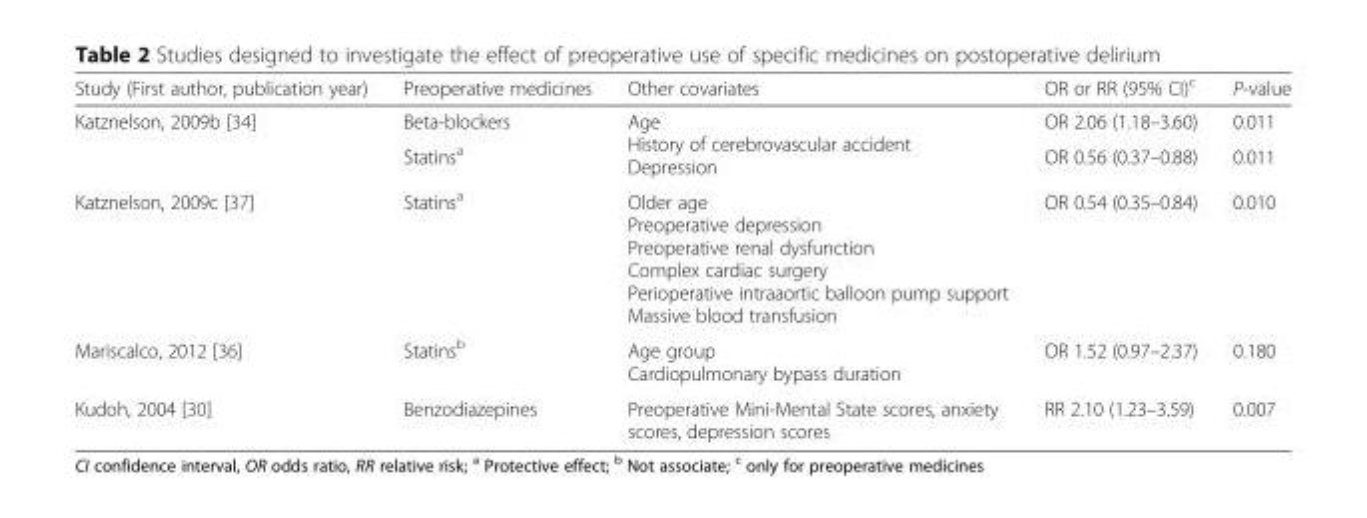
<table><thead><tr><td>Study (First author, publication year)</td><td>Preoperative medicines</td><td>Other covariates</td><td>OR or RR (95% CI)<sup>c</sup></td><td>P-value</td></tr></thead><tbody><tr><td rowspan="2">Katznelson, 2009b [34]</td><td>Beta-blockers</td><td rowspan="2">Age History of cerebrovascular accident Depression</td><td>OR 2.06 (1.18–3.60)</td><td>0.011</td></tr><tr><td>Statins<sup>a</sup></td><td>OR 0.56 (0.37–0.88)</td><td>0.011</td></tr><tr><td>Katznelson, 2009c [37]</td><td>Statins<sup>a</sup></td><td>Older age Preoperative depression Preoperative renal dysfunction Complex cardiac surgery Perioperative intraaortic balloon pump support Massive blood transfusion</td><td>OR 0.54 (0.35–0.84)</td><td>0.010</td></tr><tr><td>Mariscalco, 2012 [36]</td><td>Statins<sup>b</sup></td><td>Age group Cardiopulmonary bypass duration</td><td>OR 1.52 (0.97–2.37)</td><td>0.180</td></tr><tr><td>Kudoh, 2004 [30]</td><td>Benzodiazepines</td><td>Preoperative Mini-Mental State scores, anxiety scores, depression scores</td><td>RR 2.10 (1.23–3.59)</td><td>0.007</td></tr></tbody></table>